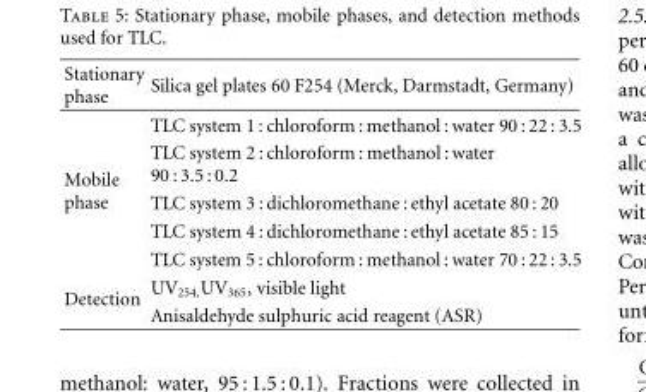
<table><thead><tr><td>Stationary phase</td><td>Silica gel plates 60 F254 (Merck, Darmstadt, Germany)</td></tr></thead><tbody><tr><td rowspan="5">Mobile phase</td><td>TLC system 1 : chloroform : methanol : water 90 : 22 : 3.5</td></tr><tr><td>TLC system 2 : chloroform : methanol : water 90 : 3.5 : 0.2</td></tr><tr><td>TLC system 3 : dichloromethane : ethyl acetate 80 : 20</td></tr><tr><td>TLC system 4 : dichloromethane : ethyl acetate 85 : 15</td></tr><tr><td>TLC system 5 : chloroform : methanol : water 70 : 22 : 3.5</td></tr><tr><td rowspan="2">Detection</td><td>UV<sub>254,</sub>UV<sub>365</sub>, visible light</td></tr><tr><td>Anisaldehyde sulphuric acid reagent (ASR)</td></tr></tbody></table>